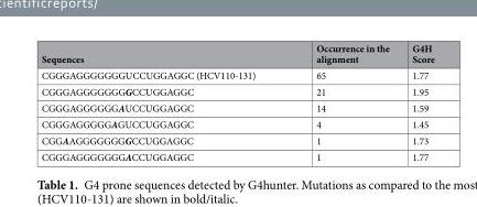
<table><thead><tr><td>Sequences</td><td>Occurrence in the alignment</td><td>G4H Score</td></tr></thead><tbody><tr><td>CGGGAGGGGGGGUCCUGGAGGC (HCV110-131)</td><td>65</td><td>1.77</td></tr><tr><td>CGGGAGGGGGGGGCCUGGAGGC</td><td>21</td><td>1.95</td></tr><tr><td>CGGGAGGGGGGAUCCUGGAGGC</td><td>14</td><td>1.59</td></tr><tr><td>CGGGAGGGGGAGUCCUGGAGGC</td><td>4</td><td>1.45</td></tr><tr><td>CGGAAGGGGGGGGCCUGGAGGC</td><td>1</td><td>1.73</td></tr><tr><td>CGGGAGGGGGGGACCUGGAGGC</td><td>1</td><td>1.77</td></tr></tbody></table>